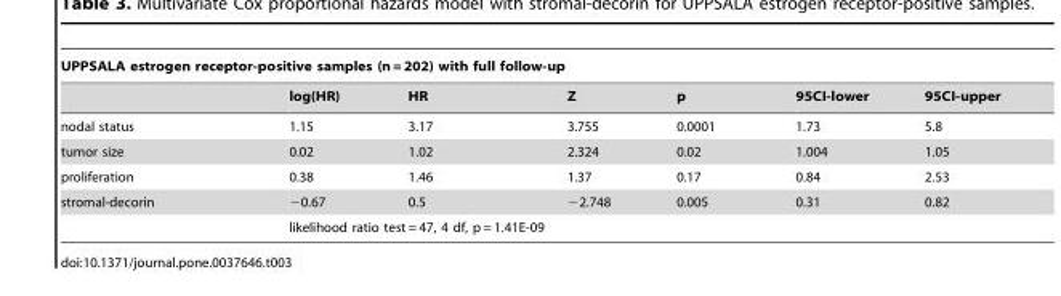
<table><thead><tr><td colspan="7">UPPSALA estrogen receptor-positive samples (n = 202) with full follow-up</td></tr><tr><td></td><td>log(HR)</td><td>HR</td><td>Z</td><td>p</td><td>95CI-lower</td><td>95CI-upper</td></tr></thead><tbody><tr><td>nodal status</td><td>1.15</td><td>3.17</td><td>3.755</td><td>0.0001</td><td>1.73</td><td>5.8</td></tr><tr><td>tumor size</td><td>0.02</td><td>1.02</td><td>2.324</td><td>0.02</td><td>1.004</td><td>1.05</td></tr><tr><td>proliferation</td><td>0.38</td><td>1.46</td><td>1.37</td><td>0.17</td><td>0.84</td><td>2.53</td></tr><tr><td rowspan="2">stromal-decorin</td><td>−0.67</td><td>0.5</td><td>−2.748</td><td>0.005</td><td>0.31</td><td>0.82</td></tr><tr><td colspan="6">likelihood ratio test = 47, 4 df, p = 1.41E-09</td></tr></tbody></table>